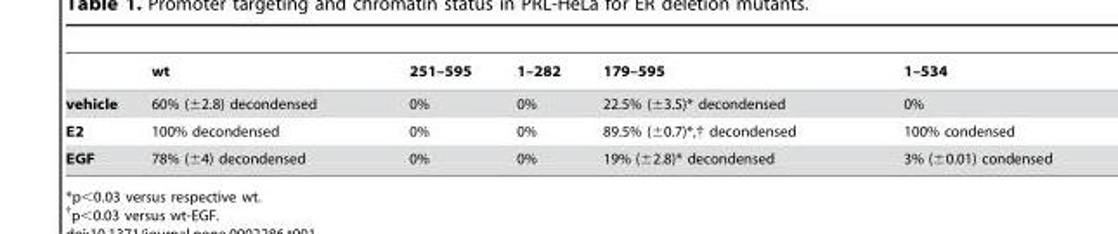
<table><thead><tr><td></td><td>wt</td><td>251–595</td><td>1–282</td><td>179–595</td><td>1–534</td></tr></thead><tbody><tr><td>vehicle</td><td>60% (±2.8) decondensed</td><td>0%</td><td>0%</td><td>22.5% (±3.5)* decondensed</td><td>0%</td></tr><tr><td>E2</td><td>100% decondensed</td><td>0%</td><td>0%</td><td>89.5% (±0.7)*,† decondensed</td><td>100% condensed</td></tr><tr><td>EGF</td><td>78% (±4) decondensed</td><td>0%</td><td>0%</td><td>19% (±2.8)* decondensed</td><td>3% (±0.01) condensed</td></tr></tbody></table>